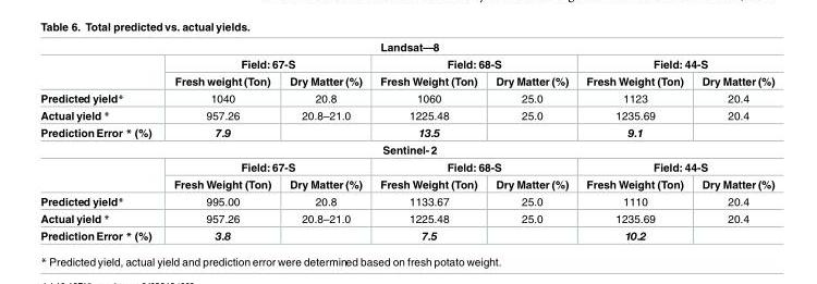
<table><tbody><tr><td colspan="7">Landsat—8</td></tr><tr><td rowspan="2"></td><td colspan="2">Field: 67-S</td><td colspan="2">Field: 68-S</td><td colspan="2">Field: 44-S</td></tr><tr><td>Fresh weight (Ton)</td><td>Dry Matter (%)</td><td>Fresh Weight (Ton)</td><td>Dry Matter (%)</td><td>Fresh Weight (Ton)</td><td>Dry Matter (%)</td></tr><tr><td>Predicted yield*</td><td>1040</td><td>20.8</td><td>1060</td><td>25.0</td><td>1123</td><td>20.4</td></tr><tr><td>Actual yield *</td><td>957.26</td><td>20.8–21.0</td><td>1225.48</td><td>25.0</td><td>1235.69</td><td>20.4</td></tr><tr><td>Prediction Error * (%)</td><td>7.9</td><td></td><td>13.5</td><td></td><td>9.1</td><td></td></tr><tr><td colspan="7">Sentinel- 2</td></tr><tr><td rowspan="2"></td><td colspan="2">Field: 67-S</td><td colspan="2">Field: 68-S</td><td colspan="2">Field: 44-S</td></tr><tr><td>Fresh Weight (Ton)</td><td>Dry Matter (%)</td><td>Fresh Weight (Ton)</td><td>Dry Matter (%)</td><td>Fresh Weight (Ton)</td><td>Dry Matter (%)</td></tr><tr><td>Predicted yield*</td><td>995.00</td><td>20.8</td><td>1133.67</td><td>25.0</td><td>1110</td><td>20.4</td></tr><tr><td>Actual yield *</td><td>957.26</td><td>20.8–21.0</td><td>1225.48</td><td>25.0</td><td>1235.69</td><td>20.4</td></tr><tr><td>Prediction Error * (%)</td><td>3.8</td><td></td><td>7.5</td><td></td><td>10.2</td><td></td></tr></tbody></table>